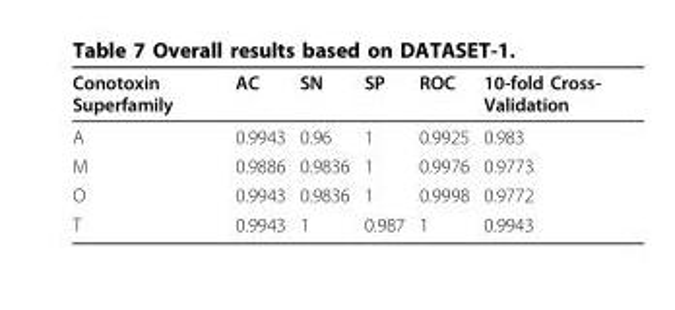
<table><thead><tr><td>Conotoxin Superfamily</td><td>AC</td><td>SN</td><td>SP</td><td>ROC</td><td>10-fold Cross- Validation</td></tr></thead><tbody><tr><td>A</td><td>0.9943</td><td>0.96</td><td>1</td><td>0.9925</td><td>0.983</td></tr><tr><td>M</td><td>0.9886</td><td>0.9836</td><td>1</td><td>0.9976</td><td>0.9773</td></tr><tr><td>O</td><td>0.9943</td><td>0.9836</td><td>1</td><td>0.9998</td><td>0.9772</td></tr><tr><td>T</td><td>0.9943</td><td>1</td><td>0.987</td><td>1</td><td>0.9943</td></tr></tbody></table>